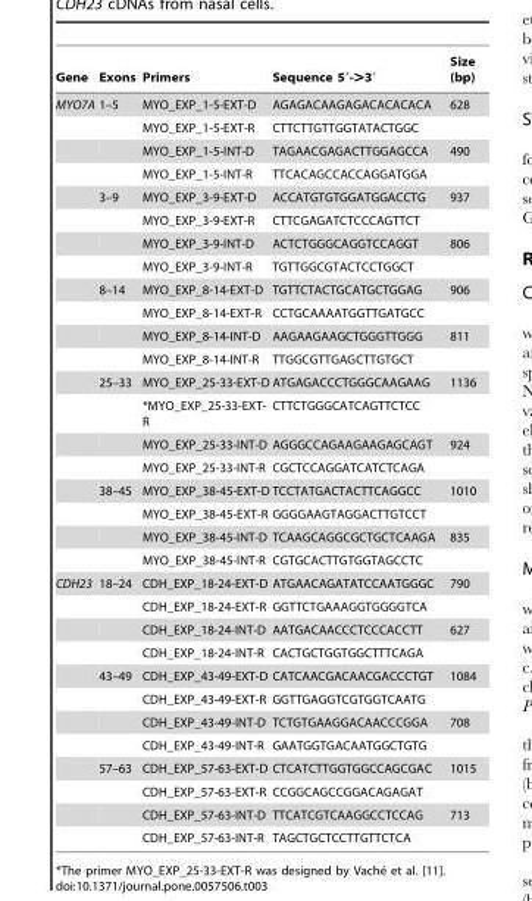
<table><thead><tr><td>Gene</td><td>Exons</td><td>Primers</td><td>Sequence 5′-&gt;3′</td><td>Size (bp)</td></tr></thead><tbody><tr><td rowspan="20">MYO7A</td><td>1–5</td><td>MYO_EXP_1-5-EXT-D</td><td>AGAGACAAGAGACACACACA</td><td>628</td></tr><tr><td></td><td>MYO_EXP_1-5-EXT-R</td><td>CTTCTTGTTGGTATACTGGC</td><td></td></tr><tr><td></td><td>MYO_EXP_1-5-INT-D</td><td>TAGAACGAGACTTGGAGCCA</td><td>490</td></tr><tr><td></td><td>MYO_EXP_1-5-INT-R</td><td>TTCACAGCCACCAGGATGGA</td><td></td></tr><tr><td>3–9</td><td>MYO_EXP_3-9-EXT-D</td><td>ACCATGTGTGGATGGACCTG</td><td>937</td></tr><tr><td></td><td>MYO_EXP_3-9-EXT-R</td><td>CTTCGAGATCTCCCAGTTCT</td><td></td></tr><tr><td></td><td>MYO_EXP_3-9-INT-D</td><td>ACTCTGGGCAGGTCCAGGT</td><td>806</td></tr><tr><td></td><td>MYO_EXP_3-9-INT-R</td><td>TGTTGGCGTACTCCTGGCT</td><td></td></tr><tr><td>8–14</td><td>MYO_EXP_8-14-EXT-D</td><td>TGTTCTACTGCATGCTGGAG</td><td>906</td></tr><tr><td></td><td>MYO_EXP_8-14-EXT-R</td><td>CCTGCAAAATGGTTGATGCC</td><td></td></tr><tr><td></td><td>MYO_EXP_8-14-INT-D</td><td>AAGAAGAAGCTGGGTTGGG</td><td>811</td></tr><tr><td></td><td>MYO_EXP_8-14-INT-R</td><td>TTGGCGTTGAGCTTGTGCT</td><td></td></tr><tr><td>25–33</td><td>MYO_EXP_25-33-EXT-D</td><td>ATGAGACCCTGGGCAAGAAG</td><td>1136</td></tr><tr><td></td><td>*MYO_EXP_25-33-EXT- R</td><td>CTTCTGGGCATCAGTTCTCC</td><td></td></tr><tr><td></td><td>MYO_EXP_25-33-INT-D</td><td>AGGGCCAGAAGAAGAGCAGT</td><td>924</td></tr><tr><td></td><td>MYO_EXP_25-33-INT-R</td><td>CGCTCCAGGATCATCTCAGA</td><td></td></tr><tr><td>38–45</td><td>MYO_EXP_38-45-EXT-D</td><td>TCCTATGACTACTTCAGGCC</td><td>1010</td></tr><tr><td></td><td>MYO_EXP_38-45-EXT-R</td><td>GGGGAAGTAGGACTTGTCCT</td><td></td></tr><tr><td></td><td>MYO_EXP_38-45-INT-D</td><td>TCAAGCAGGCGCTGCTCAAGA</td><td>835</td></tr><tr><td></td><td>MYO_EXP_38-45-INT-R</td><td>CGTGCACTTGTGGTAGCCTC</td><td></td></tr><tr><td rowspan="12">CDH23</td><td>18–24</td><td>CDH_EXP_18-24-EXT-D</td><td>ATGAACAGATATCCAATGGGC</td><td>790</td></tr><tr><td></td><td>CDH_EXP_18-24-EXT-R</td><td>GGTTCTGAAAGGTGGGGTCA</td><td></td></tr><tr><td></td><td>CDH_EXP_18-24-INT-D</td><td>AATGACAACCCTCCCACCTT</td><td>627</td></tr><tr><td></td><td>CDH_EXP_18-24-INT-R</td><td>CACTGCTGGTGGCTTTCAGA</td><td></td></tr><tr><td>43–49</td><td>CDH_EXP_43-49-EXT-D</td><td>CATCAACGACAACGACCCTGT</td><td>1084</td></tr><tr><td></td><td>CDH_EXP_43-49-EXT-R</td><td>GGTTGAGGTCGTGGTCAATG</td><td></td></tr><tr><td></td><td>CDH_EXP_43-49-INT-D</td><td>TCTGTGAAGGACAACCCGGA</td><td>708</td></tr><tr><td></td><td>CDH_EXP_43-49-INT-R</td><td>GAATGGTGACAATGGCTGTG</td><td></td></tr><tr><td>57–63</td><td>CDH_EXP_57-63-EXT-D</td><td>CTCATCTTGGTGGCCAGCGAC</td><td>1015</td></tr><tr><td></td><td>CDH_EXP_57-63-EXT-R</td><td>CCGGCAGCCGGACAGAGAT</td><td></td></tr><tr><td></td><td>CDH_EXP_57-63-INT-D</td><td>TTCATCGTCAAGGCCTCCAG</td><td>713</td></tr><tr><td></td><td>CDH_EXP_57-63-INT-R</td><td>TAGCTGCTCCTTGTTCTCA</td><td></td></tr></tbody></table>